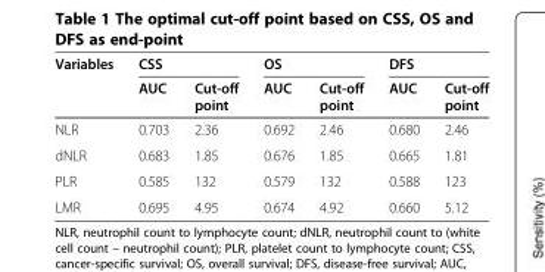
<table><thead><tr><td rowspan="2">Variables</td><td colspan="2">CSS</td><td colspan="2">OS</td><td colspan="2">DFS</td></tr><tr><td>AUC</td><td>Cut-off point</td><td>AUC</td><td>Cut-off point</td><td>AUC</td><td>Cut-off point</td></tr></thead><tbody><tr><td>NLR</td><td>0.703</td><td>2.36</td><td>0.692</td><td>2.46</td><td>0.680</td><td>2.46</td></tr><tr><td>dNLR</td><td>0.683</td><td>1.85</td><td>0.676</td><td>1.85</td><td>0.665</td><td>1.81</td></tr><tr><td>PLR</td><td>0.585</td><td>132</td><td>0.579</td><td>132</td><td>0.588</td><td>123</td></tr><tr><td>LMR</td><td>0.695</td><td>4.95</td><td>0.674</td><td>4.92</td><td>0.660</td><td>5.12</td></tr></tbody></table>